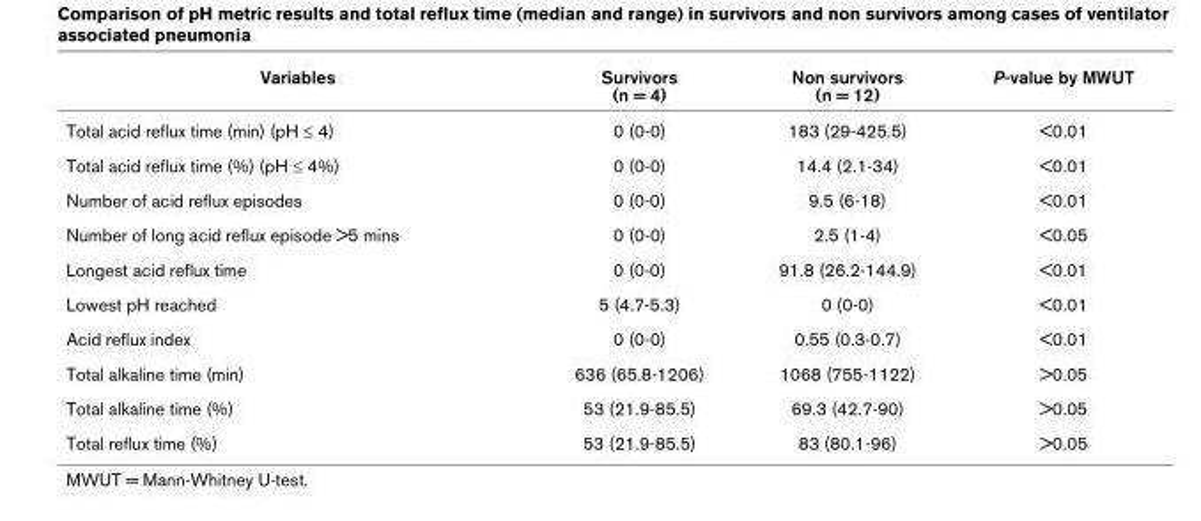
<table><thead><tr><td>Variables</td><td>Survivors (n = 4)</td><td>Non survivors (n = 12)</td><td>P-value by MWUT</td></tr></thead><tbody><tr><td>Total acid reflux time (min) (pH ≤ 4)</td><td>0 (0-0)</td><td>183 (29-425.5)</td><td>&lt;0.01</td></tr><tr><td>Total acid reflux time (%) (pH ≤ 4%)</td><td>0 (0-0)</td><td>14.4 (2.1-34)</td><td>&lt;0.01</td></tr><tr><td>Number of acid reflux episodes</td><td>0 (0-0)</td><td>9.5 (6-18)</td><td>&lt;0.01</td></tr><tr><td>Number of long acid reflux episode &gt;5 mins</td><td>0 (0-0)</td><td>2.5 (1-4)</td><td>&lt;0.05</td></tr><tr><td>Longest acid reflux time</td><td>0 (0-0)</td><td>91.8 (26.2-144.9)</td><td>&lt;0.01</td></tr><tr><td>Lowest pH reached</td><td>5 (4.7-5.3)</td><td>0 (0-0)</td><td>&lt;0.01</td></tr><tr><td>Acid reflux index</td><td>0 (0-0)</td><td>0.55 (0.3-0.7)</td><td>&lt;0.01</td></tr><tr><td>Total alkaline time (min)</td><td>636 (65.8-1206)</td><td>1068 (755-1122)</td><td>&gt;0.05</td></tr><tr><td>Total alkaline time (%)</td><td>53 (21.9-85.5)</td><td>69.3 (42.7-90)</td><td>&gt;0.05</td></tr><tr><td>Total reflux time (%)</td><td>53 (21.9-85.5)</td><td>83 (80.1-96)</td><td>&gt;0.05</td></tr></tbody></table>